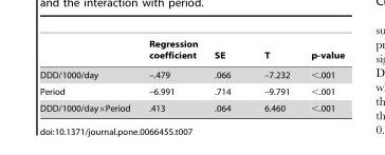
<table><thead><tr><td></td><td>Regression coefficient</td><td>SE</td><td>T</td><td>p-value</td></tr></thead><tbody><tr><td>DDD/1000/day</td><td>–.479</td><td>.066</td><td>–7.232</td><td>&lt;.001</td></tr><tr><td>Period</td><td>–6.991</td><td>.714</td><td>–9.791</td><td>&lt;.001</td></tr><tr><td>DDD/1000/day×Period</td><td>.413</td><td>.064</td><td>6.460</td><td>&lt;.001</td></tr></tbody></table>